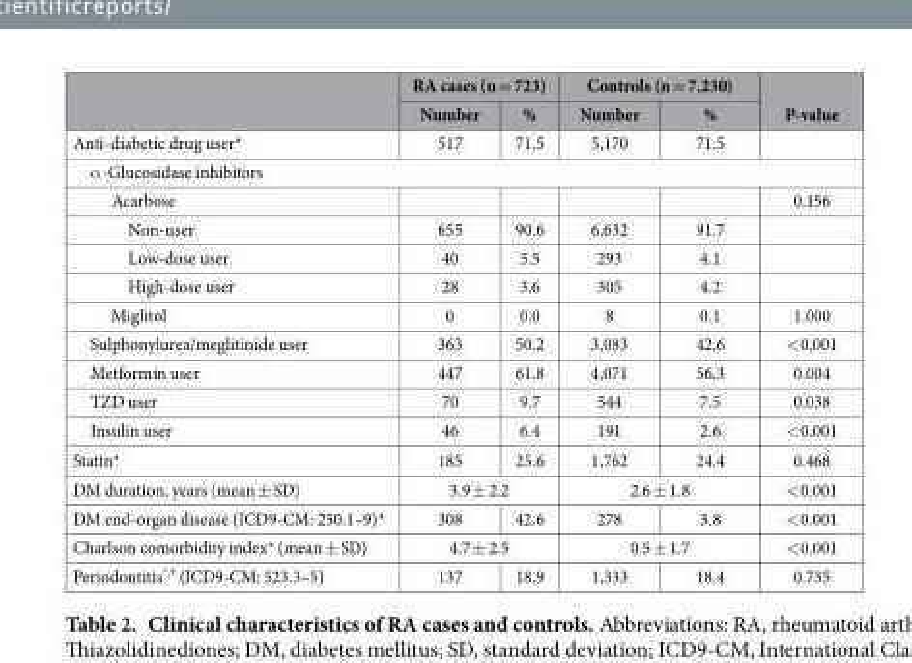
<table><thead><tr><td rowspan="2"></td><td colspan="2">RA cases (n = 723)</td><td colspan="2">Controls (n = 7,230)</td><td rowspan="2">P-value</td></tr><tr><td>Number</td><td>%</td><td>Number</td><td>%</td></tr></thead><tbody><tr><td>Anti-diabetic drug user*</td><td>517</td><td>71.5</td><td>5,170</td><td>71.5</td><td></td></tr><tr><td colspan="6">α -Glucosidase inhibitors</td></tr><tr><td>Acarbose</td><td></td><td></td><td></td><td></td><td>0.156</td></tr><tr><td>Non-user</td><td>655</td><td>90.6</td><td>6,632</td><td>91.7</td><td></td></tr><tr><td>Low-dose user</td><td>40</td><td>5.5</td><td>293</td><td>4.1</td><td></td></tr><tr><td>High-dose user</td><td>28</td><td>3.6</td><td>305</td><td>4.2</td><td></td></tr><tr><td>Miglitol</td><td>0</td><td>0.0</td><td>8</td><td>0.1</td><td>1.000</td></tr><tr><td>Sulphonylurea/meglitinide user</td><td>363</td><td>50.2</td><td>3,083</td><td>42.6</td><td>&lt; 0.001</td></tr><tr><td>Metformin user</td><td>447</td><td>61.8</td><td>4,071</td><td>56.3</td><td>0.004</td></tr><tr><td>TZD user</td><td>70</td><td>9.7</td><td>544</td><td>7.5</td><td>0.038</td></tr><tr><td>Insulin user</td><td>46</td><td>6.4</td><td>191</td><td>2.6</td><td>&lt; 0.001</td></tr><tr><td>Statin*</td><td>185</td><td>25.6</td><td>1,762</td><td>24.4</td><td>0.468</td></tr><tr><td>DM duration, years (mean ± SD)</td><td colspan="2">3.9 ± 2.2</td><td colspan="2">2.6 ± 1.8</td><td>&lt; 0.001</td></tr><tr><td>DM end-organ disease (ICD9-CM: 250.1–9)*</td><td>308</td><td>42.6</td><td>278</td><td>3.8</td><td>&lt; 0.001</td></tr><tr><td>Charlson comorbidity index* (mean ± SD)</td><td colspan="2">4.7 ± 2.5</td><td colspan="2">0.5 ± 1.7</td><td>&lt; 0.001</td></tr><tr><td>Periodontitis*<sup>,</sup>† (ICD9-CM: 523.3–5)</td><td>137</td><td>18.9</td><td>1,333</td><td>18.4</td><td>0.735</td></tr></tbody></table>